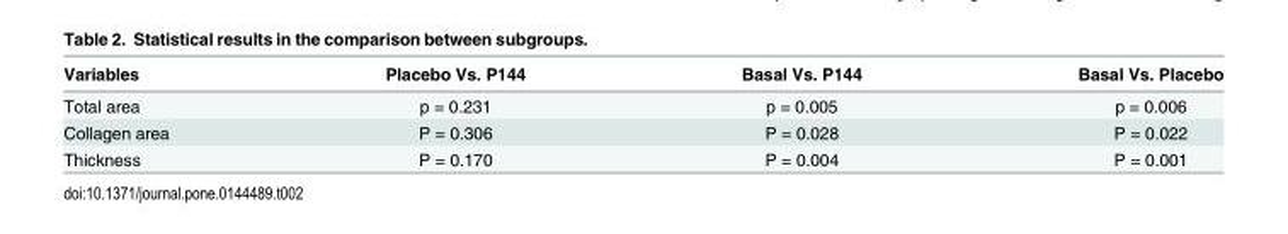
<table><thead><tr><td>Variables</td><td>Placebo Vs. P144</td><td>Basal Vs. P144</td><td>Basal Vs. Placebo</td></tr></thead><tbody><tr><td>Total area</td><td>p = 0.231</td><td>p = 0.005</td><td>p = 0.006</td></tr><tr><td>Collagen area</td><td>P = 0.306</td><td>P = 0.028</td><td>P = 0.022</td></tr><tr><td>Thickness</td><td>P = 0.170</td><td>P = 0.004</td><td>P = 0.001</td></tr></tbody></table>